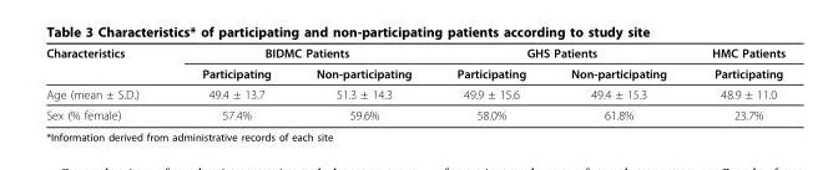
<table><thead><tr><td rowspan="2">Characteristics</td><td colspan="2">BIDMC Patients</td><td colspan="2">GHS Patients</td><td rowspan="2">HMC Patients Participating</td></tr><tr><td>Participating</td><td>Non-participating</td><td>Participating</td><td>Non-participating</td></tr></thead><tbody><tr><td>Age (mean ± S.D.)</td><td>49.4 ± 13.7</td><td>51.3 ± 14.3</td><td>49.9 ± 15.6</td><td>49.4 ± 15.3</td><td>48.9 ± 11.0</td></tr><tr><td>Sex (% female)</td><td>57.4%</td><td>59.6%</td><td>58.0%</td><td>61.8%</td><td>23.7%</td></tr></tbody></table>